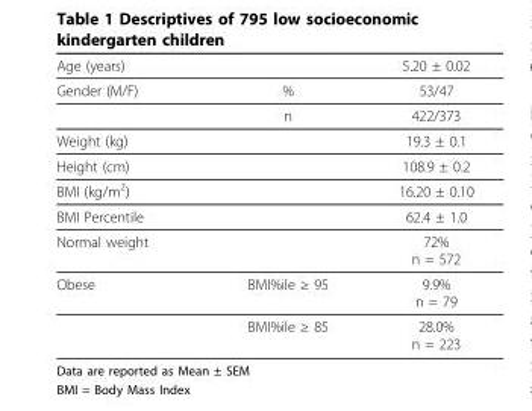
<table><thead><tr><td>Age (years)</td><td></td><td>5.20 ± 0.02</td></tr></thead><tbody><tr><td rowspan="2">Gender (M/F)</td><td>%</td><td>53/47</td></tr><tr><td>n</td><td>422/373</td></tr><tr><td>Weight (kg)</td><td></td><td>19.3 ± 0.1</td></tr><tr><td>Height (cm)</td><td></td><td>108.9 ± 0.2</td></tr><tr><td>BMI (kg/m<sup>2</sup>)</td><td></td><td>16.20 ± 0.10</td></tr><tr><td>BMI Percentile</td><td></td><td>62.4 ± 1.0</td></tr><tr><td>Normal weight</td><td></td><td>72% n = 572</td></tr><tr><td rowspan="2">Obese</td><td>BMI%ile ≥ 95</td><td>9.9% n = 79</td></tr><tr><td>BMI%ile ≥ 85</td><td>28.0% n = 223</td></tr></tbody></table>